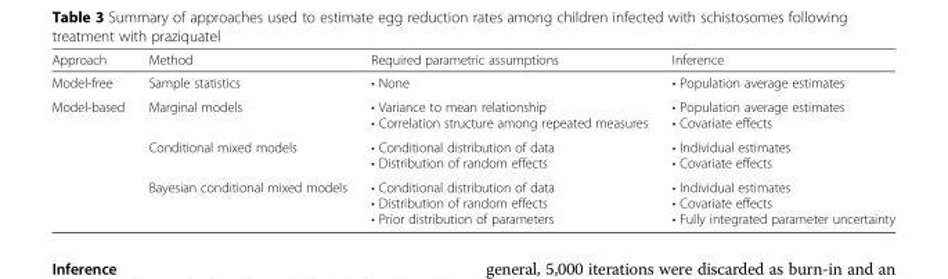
<table><thead><tr><td>Approach</td><td>Method</td><td>Required parametric assumptions</td><td>Inference</td></tr></thead><tbody><tr><td>Model-free</td><td>Sample statistics</td><td>• None</td><td>• Population average estimates</td></tr><tr><td rowspan="3">Model-based</td><td>Marginal models</td><td>• Variance to mean relationship • Correlation structure among repeated measures</td><td>• Population average estimates • Covariate effects</td></tr><tr><td>Conditional mixed models</td><td>• Conditional distribution of data • Distribution of random effects</td><td>• Individual estimates • Covariate effects</td></tr><tr><td>Bayesian conditional mixed models</td><td>• Conditional distribution of data • Distribution of random effects • Prior distribution of parameters</td><td>• Individual estimates • Covariate effects • Fully integrated parameter uncertainty</td></tr></tbody></table>